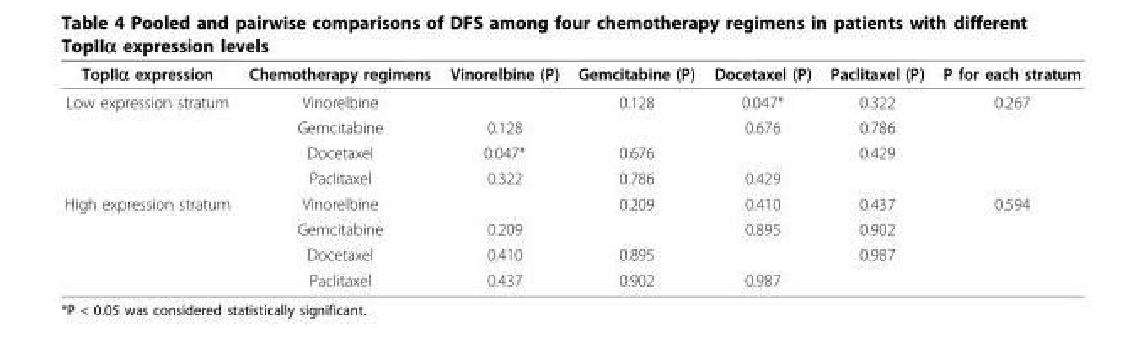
<table><thead><tr><td>TopIIα expression</td><td>Chemotherapy regimens</td><td>Vinorelbine (P)</td><td>Gemcitabine (P)</td><td>Docetaxel (P)</td><td>Paclitaxel (P)</td><td>P for each stratum</td></tr></thead><tbody><tr><td rowspan="4">Low expression stratum</td><td>Vinorelbine</td><td></td><td>0.128</td><td>0.047*</td><td>0.322</td><td>0.267</td></tr><tr><td>Gemcitabine</td><td>0.128</td><td></td><td>0.676</td><td>0.786</td><td></td></tr><tr><td>Docetaxel</td><td>0.047*</td><td>0.676</td><td></td><td>0.429</td><td></td></tr><tr><td>Paclitaxel</td><td>0.322</td><td>0.786</td><td>0.429</td><td></td><td></td></tr><tr><td rowspan="4">High expression stratum</td><td>Vinorelbine</td><td></td><td>0.209</td><td>0.410</td><td>0.437</td><td>0.594</td></tr><tr><td>Gemcitabine</td><td>0.209</td><td></td><td>0.895</td><td>0.902</td><td></td></tr><tr><td>Docetaxel</td><td>0.410</td><td>0.895</td><td></td><td>0.987</td><td></td></tr><tr><td>Paclitaxel</td><td>0.437</td><td>0.902</td><td>0.987</td><td></td><td></td></tr></tbody></table>